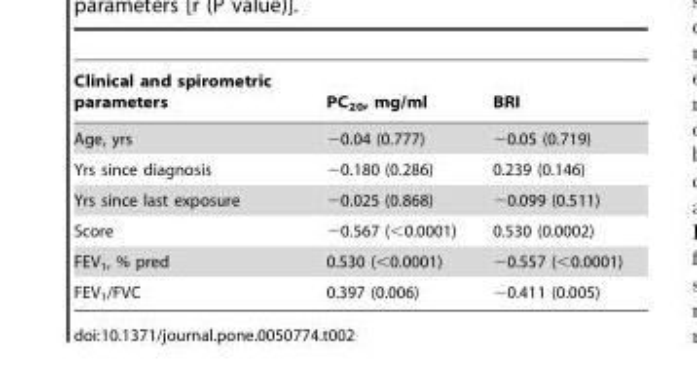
<table><thead><tr><td>Clinical and spirometric parameters</td><td>PC<sub>20</sub>, mg/ml</td><td>BRI</td></tr></thead><tbody><tr><td>Age, yrs</td><td>−0.04 (0.777)</td><td>−0.05 (0.719)</td></tr><tr><td>Yrs since diagnosis</td><td>−0.180 (0.286)</td><td>0.239 (0.146)</td></tr><tr><td>Yrs since last exposure</td><td>−0.025 (0.868)</td><td>−0.099 (0.511)</td></tr><tr><td>Score</td><td>−0.567 (&lt;0.0001)</td><td>0.530 (0.0002)</td></tr><tr><td>FEV<sub>1</sub>, % pred</td><td>0.530 (&lt;0.0001)</td><td>−0.557 (&lt;0.0001)</td></tr><tr><td>FEV<sub>1</sub>/FVC</td><td>0.397 (0.006)</td><td>−0.411 (0.005)</td></tr></tbody></table>